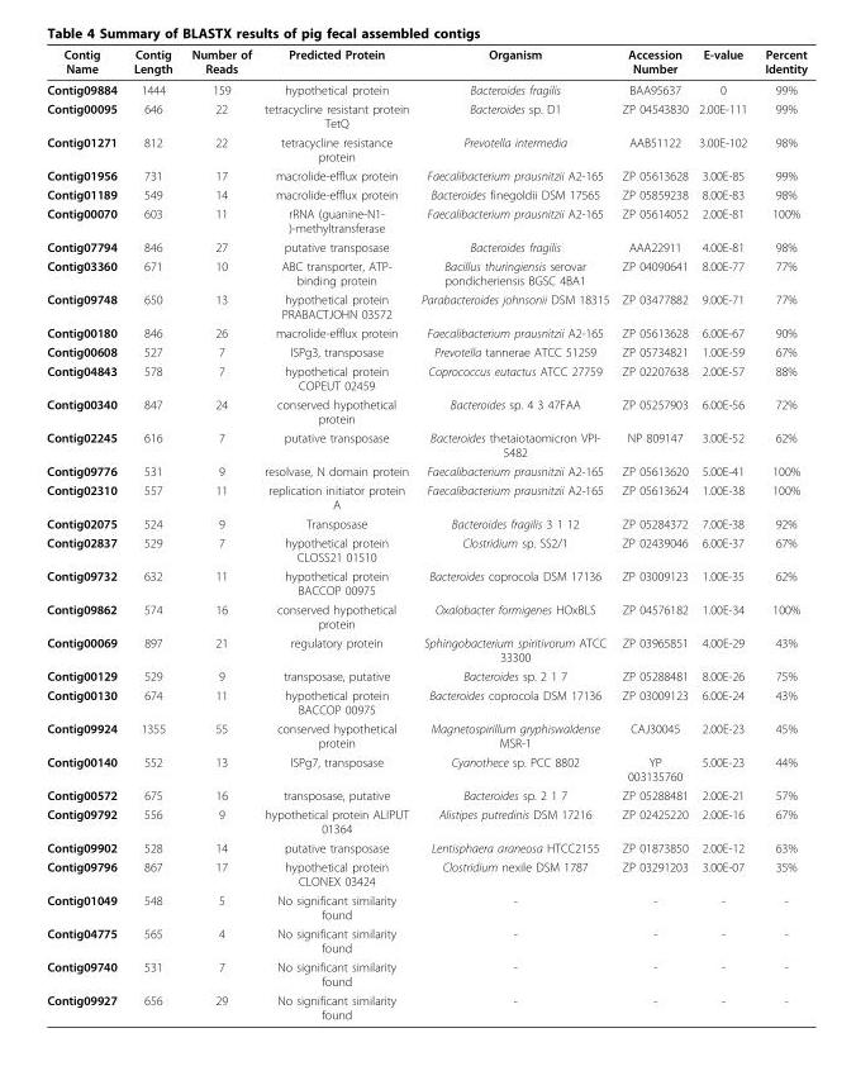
<table><thead><tr><td>Contig Name</td><td>Contig Length</td><td>Number of Reads</td><td>Predicted Protein</td><td>Organism</td><td>Accession Number</td><td>E-value</td><td>Percent Identity</td></tr></thead><tbody><tr><td>Contig09884</td><td>1444</td><td>159</td><td>hypothetical protein</td><td>Bacteroides fragilis</td><td>BAA95637</td><td>0</td><td>99%</td></tr><tr><td>Contig00095</td><td>646</td><td>22</td><td>tetracycline resistant protein TetQ</td><td>Bacteroides sp. D1</td><td>ZP 04543830</td><td>2.00E-111</td><td>99%</td></tr><tr><td>Contig01271</td><td>812</td><td>22</td><td>tetracycline resistance protein</td><td>Prevotella intermedia</td><td>AAB51122</td><td>3.00E-102</td><td>98%</td></tr><tr><td>Contig01956</td><td>731</td><td>17</td><td>macrolide-efflux protein</td><td>Faecalibacterium prausnitzii A2-165</td><td>ZP 05613628</td><td>3.00E-85</td><td>99%</td></tr><tr><td>Contig01189</td><td>549</td><td>14</td><td>macrolide-efflux protein</td><td>Bacteroides finegoldii DSM 17565</td><td>ZP 05859238</td><td>8.00E-83</td><td>98%</td></tr><tr><td>Contig00070</td><td>603</td><td>11</td><td>rRNA (guanine-N1- )-methyltransferase</td><td>Faecalibacterium prausnitzii A2-165</td><td>ZP 05614052</td><td>2.00E-81</td><td>100%</td></tr><tr><td>Contig07794</td><td>846</td><td>27</td><td>putative transposase</td><td>Bacteroides fragilis</td><td>AAA22911</td><td>4.00E-81</td><td>98%</td></tr><tr><td>Contig03360</td><td>671</td><td>10</td><td>ABC transporter, ATP- binding protein</td><td>Bacillus thuringiensis serovar pondicheriensis BGSC 4BA1</td><td>ZP 04090641</td><td>8.00E-77</td><td>77%</td></tr><tr><td>Contig09748</td><td>650</td><td>13</td><td>hypothetical protein PRABACTJOHN 03572</td><td>Parabacteroides johnsonii DSM 18315</td><td>ZP 03477882</td><td>9.00E-71</td><td>77%</td></tr><tr><td>Contig00180</td><td>846</td><td>26</td><td>macrolide-efflux protein</td><td>Faecalibacterium prausnitzii A2-165</td><td>ZP 05613628</td><td>6.00E-67</td><td>90%</td></tr><tr><td>Contig00608</td><td>527</td><td>7</td><td>ISPg3, transposase</td><td>Prevotella tannerae ATCC 51259</td><td>ZP 05734821</td><td>1.00E-59</td><td>67%</td></tr><tr><td>Contig04843</td><td>578</td><td>7</td><td>hypothetical protein COPEUT 02459</td><td>Coprococcus eutactus ATCC 27759</td><td>ZP 02207638</td><td>2.00E-57</td><td>88%</td></tr><tr><td>Contig00340</td><td>847</td><td>24</td><td>conserved hypothetical protein</td><td>Bacteroides sp. 4 3 47FAA</td><td>ZP 05257903</td><td>6.00E-56</td><td>72%</td></tr><tr><td>Contig02245</td><td>616</td><td>7</td><td>putative transposase</td><td>Bacteroides thetaiotaomicron VPI- 5482</td><td>NP 809147</td><td>3.00E-52</td><td>62%</td></tr><tr><td>Contig09776</td><td>531</td><td>9</td><td>resolvase, N domain protein</td><td>Faecalibacterium prausnitzii A2-165</td><td>ZP 05613620</td><td>5.00E-41</td><td>100%</td></tr><tr><td>Contig02310</td><td>557</td><td>11</td><td>replication initiator protein A</td><td>Faecalibacterium prausnitzii A2-165</td><td>ZP 05613624</td><td>1.00E-38</td><td>100%</td></tr><tr><td>Contig02075</td><td>524</td><td>9</td><td>Transposase</td><td>Bacteroides fragilis 3 1 12</td><td>ZP 05284372</td><td>7.00E-38</td><td>92%</td></tr><tr><td>Contig02837</td><td>529</td><td>7</td><td>hypothetical protein CLOSS21 01510</td><td>Clostridium sp. SS2/1</td><td>ZP 02439046</td><td>6.00E-37</td><td>67%</td></tr><tr><td>Contig09732</td><td>632</td><td>11</td><td>hypothetical protein BACCOP 00975</td><td>Bacteroides coprocola DSM 17136</td><td>ZP 03009123</td><td>1.00E-35</td><td>62%</td></tr><tr><td>Contig09862</td><td>574</td><td>16</td><td>conserved hypothetical protein</td><td>Oxalobacter formigenes HOxBLS</td><td>ZP 04576182</td><td>1.00E-34</td><td>100%</td></tr><tr><td>Contig00069</td><td>897</td><td>21</td><td>regulatory protein</td><td>Sphingobacterium spiritivorum ATCC 33300</td><td>ZP 03965851</td><td>4.00E-29</td><td>43%</td></tr><tr><td>Contig00129</td><td>529</td><td>9</td><td>transposase, putative</td><td>Bacteroides sp. 2 1 7</td><td>ZP 05288481</td><td>8.00E-26</td><td>75%</td></tr><tr><td>Contig00130</td><td>674</td><td>11</td><td>hypothetical protein BACCOP 00975</td><td>Bacteroides coprocola DSM 17136</td><td>ZP 03009123</td><td>6.00E-24</td><td>43%</td></tr><tr><td>Contig09924</td><td>1355</td><td>55</td><td>conserved hypothetical protein</td><td>Magnetospirillum gryphiswaldense MSR-1</td><td>CAJ30045</td><td>2.00E-23</td><td>45%</td></tr><tr><td>Contig00140</td><td>552</td><td>13</td><td>ISPg7, transposase</td><td>Cyanothece sp. PCC 8802</td><td>YP 003135760</td><td>5.00E-23</td><td>44%</td></tr><tr><td>Contig00572</td><td>675</td><td>16</td><td>transposase, putative</td><td>Bacteroides sp. 2 1 7</td><td>ZP 05288481</td><td>2.00E-21</td><td>57%</td></tr><tr><td>Contig09792</td><td>556</td><td>9</td><td>hypothetical protein ALIPUT 01364</td><td>Alistipes putredinis DSM 17216</td><td>ZP 02425220</td><td>2.00E-16</td><td>67%</td></tr><tr><td>Contig09902</td><td>528</td><td>14</td><td>putative transposase</td><td>Lentisphaera araneosa HTCC2155</td><td>ZP 01873850</td><td>2.00E-12</td><td>63%</td></tr><tr><td>Contig09796</td><td>867</td><td>17</td><td>hypothetical protein CLONEX 03424</td><td>Clostridium nexile DSM 1787</td><td>ZP 03291203</td><td>3.00E-07</td><td>35%</td></tr><tr><td>Contig01049</td><td>548</td><td>5</td><td>No significant similarity found</td><td>-</td><td>-</td><td>-</td><td>-</td></tr><tr><td>Contig04775</td><td>565</td><td>4</td><td>No significant similarity found</td><td>-</td><td>-</td><td>-</td><td>-</td></tr><tr><td>Contig09740</td><td>531</td><td>7</td><td>No significant similarity found</td><td>-</td><td>-</td><td>-</td><td>-</td></tr><tr><td>Contig09927</td><td>656</td><td>29</td><td>No significant similarity found</td><td>-</td><td>-</td><td>-</td><td>-</td></tr></tbody></table>